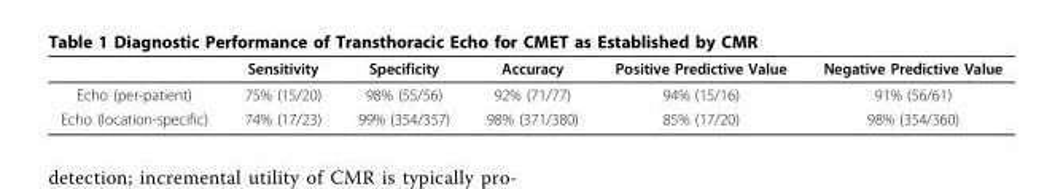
<table><thead><tr><td></td><td>Sensitivity</td><td>Specificity</td><td>Accuracy</td><td>Positive Predictive Value</td><td>Negative Predictive Value</td></tr></thead><tbody><tr><td>Echo (per-patient)</td><td>75% (15/20)</td><td>98% (55/56)</td><td>92% (71/77)</td><td>94% (15/16)</td><td>91% (56/61)</td></tr><tr><td>Echo (location-specific)</td><td>74% (17/23)</td><td>99% (354/357)</td><td>98% (371/380)</td><td>85% (17/20)</td><td>98% (354/360)</td></tr></tbody></table>